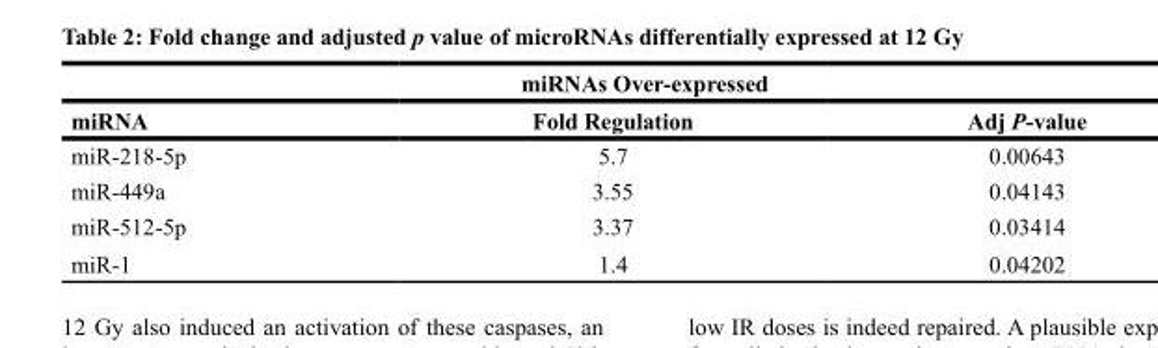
<table><thead><tr><td colspan="3">miRNAs Over-expressed</td></tr><tr><td>miRNA</td><td>Fold Regulation</td><td>Adj P-value</td></tr></thead><tbody><tr><td>miR-218-5p</td><td>5.7</td><td>0.00643</td></tr><tr><td>miR-449a</td><td>3.55</td><td>0.04143</td></tr><tr><td>miR-512-5p</td><td>3.37</td><td>0.03414</td></tr><tr><td>miR-1</td><td>1.4</td><td>0.04202</td></tr></tbody></table>